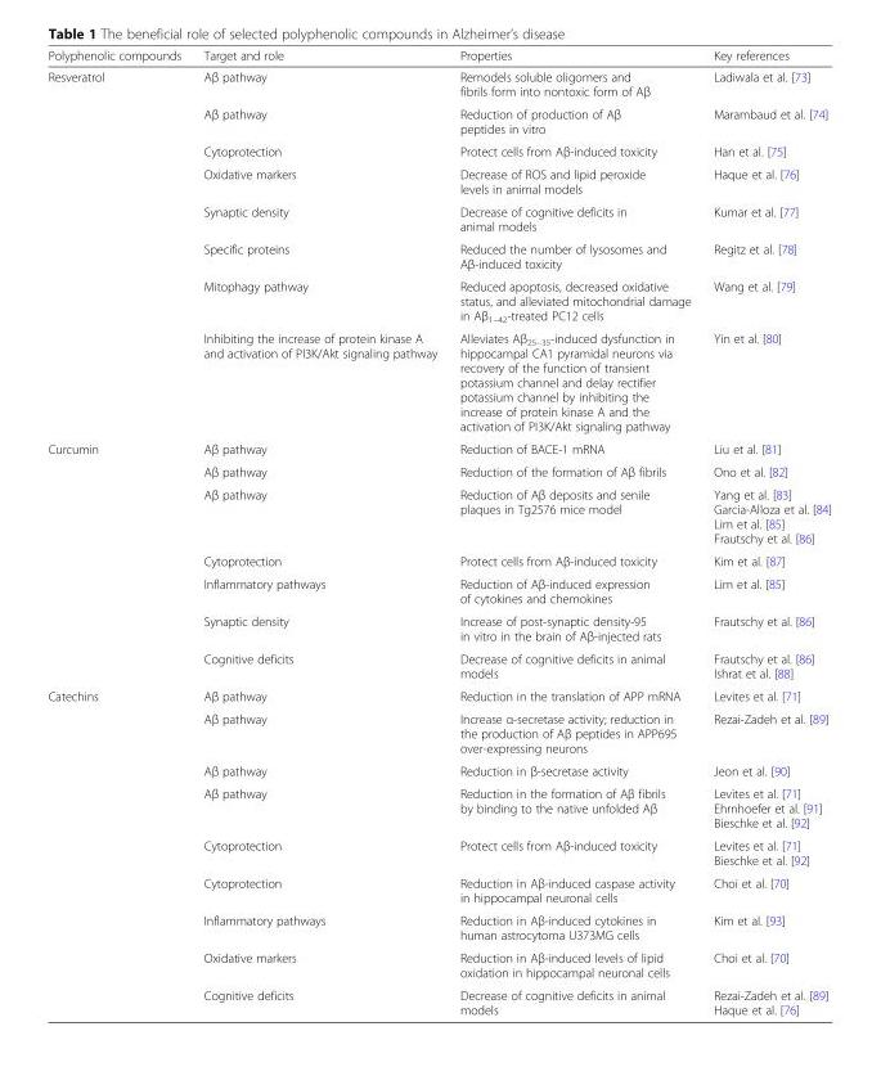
<table><thead><tr><td>Polyphenolic compounds</td><td>Target and role</td><td>Properties</td><td>Key references</td></tr></thead><tbody><tr><td rowspan="8">Resveratrol</td><td>Aβ pathway</td><td>Remodels soluble oligomers and fibrils form into nontoxic form of Aβ</td><td>Ladiwala et al. [73]</td></tr><tr><td>Aβ pathway</td><td>Reduction of production of Aβ peptides in vitro</td><td>Marambaud et al. [74]</td></tr><tr><td>Cytoprotection</td><td>Protect cells from Aβ-induced toxicity</td><td>Han et al. [75]</td></tr><tr><td>Oxidative markers</td><td>Decrease of ROS and lipid peroxide levels in animal models</td><td>Haque et al. [76]</td></tr><tr><td>Synaptic density</td><td>Decrease of cognitive deficits in animal models</td><td>Kumar et al. [77]</td></tr><tr><td>Specific proteins</td><td>Reduced the number of lysosomes and Aβ-induced toxicity</td><td>Regitz et al. [78]</td></tr><tr><td>Mitophagy pathway</td><td>Reduced apoptosis, decreased oxidative status, and alleviated mitochondrial damage in Aβ<sub>1–42</sub>-treated PC12 cells</td><td>Wang et al. [79]</td></tr><tr><td>Inhibiting the increase of protein kinase A and activation of PI3K/Akt signaling pathway</td><td>Alleviates Aβ<sub>25–35</sub>-induced dysfunction in hippocampal CA1 pyramidal neurons via recovery of the function of transient potassium channel and delay rectifier potassium channel by inhibiting the increase of protein kinase A and the activation of PI3K/Akt signaling pathway</td><td>Yin et al. [80]</td></tr><tr><td rowspan="7">Curcumin</td><td>Aβ pathway</td><td>Reduction of BACE-1 mRNA</td><td>Liu et al. [81]</td></tr><tr><td>Aβ pathway</td><td>Reduction of the formation of Aβ fibrils</td><td>Ono et al. [82]</td></tr><tr><td>Aβ pathway</td><td>Reduction of Aβ deposits and senile plaques in Tg2576 mice model</td><td>Yang et al. [83] Garcia-Alloza et al. [84] Lim et al. [85] Frautschy et al. [86]</td></tr><tr><td>Cytoprotection</td><td>Protect cells from Aβ-induced toxicity</td><td>Kim et al. [87]</td></tr><tr><td>Inflammatory pathways</td><td>Reduction of Aβ-induced expression of cytokines and chemokines</td><td>Lim et al. [85]</td></tr><tr><td>Synaptic density</td><td>Increase of post-synaptic density-95 in vitro in the brain of Aβ-injected rats</td><td>Frautschy et al. [86]</td></tr><tr><td>Cognitive deficits</td><td>Decrease of cognitive deficits in animal models</td><td>Frautschy et al. [86] Ishrat et al. [88]</td></tr><tr><td rowspan="9">Catechins</td><td>Aβ pathway</td><td>Reduction in the translation of APP mRNA</td><td>Levites et al. [71]</td></tr><tr><td>Aβ pathway</td><td>Increase α-secretase activity; reduction in the production of Aβ peptides in APP695 over-expressing neurons</td><td>Rezai-Zadeh et al. [89]</td></tr><tr><td>Aβ pathway</td><td>Reduction in β-secretase activity</td><td>Jeon et al. [90]</td></tr><tr><td>Aβ pathway</td><td>Reduction in the formation of Aβ fibrils by binding to the native unfolded Aβ</td><td>Levites et al. [71] Ehrnhoefer et al. [91] Bieschke et al. [92]</td></tr><tr><td>Cytoprotection</td><td>Protect cells from Aβ-induced toxicity</td><td>Levites et al. [71] Bieschke et al. [92]</td></tr><tr><td>Cytoprotection</td><td>Reduction in Aβ-induced caspase activity in hippocampal neuronal cells</td><td>Choi et al. [70]</td></tr><tr><td>Inflammatory pathways</td><td>Reduction in Aβ-induced cytokines in human astrocytoma U373MG cells</td><td>Kim et al. [93]</td></tr><tr><td>Oxidative markers</td><td>Reduction in Aβ-induced levels of lipid oxidation in hippocampal neuronal cells</td><td>Choi et al. [70]</td></tr><tr><td>Cognitive deficits</td><td>Decrease of cognitive deficits in animal models</td><td>Rezai-Zadeh et al. [89] Haque et al. [76]</td></tr></tbody></table>